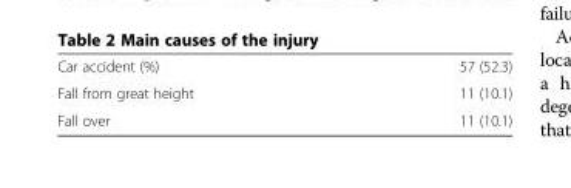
<table><tbody><tr><td>Car accident (%)</td><td>57 (52.3)</td></tr><tr><td>Fall from great height</td><td>11 (10.1)</td></tr><tr><td>Fall over</td><td>11 (10.1)</td></tr></tbody></table>